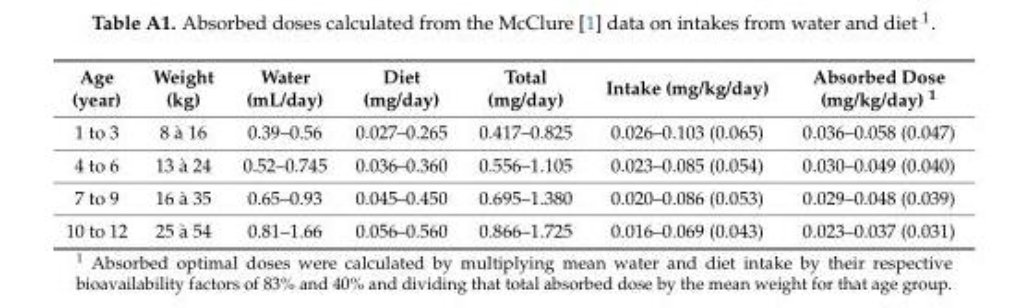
<table><thead><tr><td>Age (year)</td><td>Weight (kg)</td><td>Water (mL/day)</td><td>Diet (mg/day)</td><td>Total (mg/day)</td><td>Intake (mg/kg/day)</td><td>Absorbed Dose (mg/kg/day) <sup>1</sup></td></tr></thead><tbody><tr><td>1 to 3</td><td>8 à 16</td><td>0.39–0.56</td><td>0.027–0.265</td><td>0.417–0.825</td><td>0.026–0.103 (0.065)</td><td>0.036–0.058 (0.047)</td></tr><tr><td>4 to 6</td><td>13 à 24</td><td>0.52–0.745</td><td>0.036–0.360</td><td>0.556–1.105</td><td>0.023–0.085 (0.054)</td><td>0.030–0.049 (0.040)</td></tr><tr><td>7 to 9</td><td>16 à 35</td><td>0.65–0.93</td><td>0.045–0.450</td><td>0.695–1.380</td><td>0.020–0.086 (0.053)</td><td>0.029–0.048 (0.039)</td></tr><tr><td>10 to 12</td><td>25 à 54</td><td>0.81–1.66</td><td>0.056–0.560</td><td>0.866–1.725</td><td>0.016–0.069 (0.043)</td><td>0.023–0.037 (0.031)</td></tr></tbody></table>